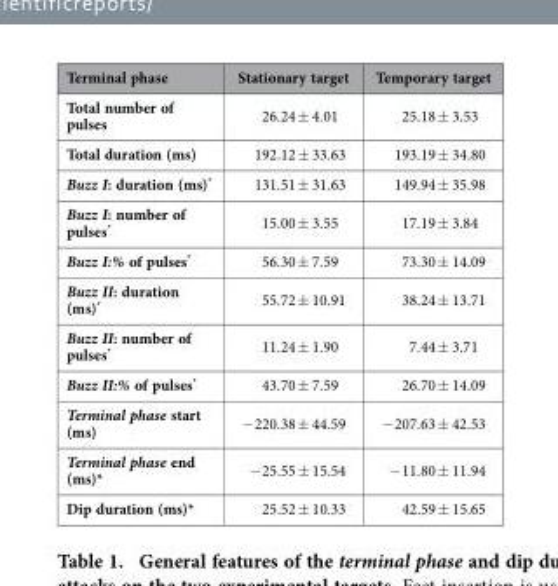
<table><thead><tr><td>Terminal phase</td><td>Stationary target</td><td>Temporary target</td></tr></thead><tbody><tr><td>Total number of pulses</td><td>26.24 ± 4.01</td><td>25.18 ± 3.53</td></tr><tr><td>Total duration (ms)</td><td>192.12 ± 33.63</td><td>193.19 ± 34.80</td></tr><tr><td>Buzz I: duration (ms)*</td><td>131.51 ± 31.63</td><td>149.94 ± 35.98</td></tr><tr><td>Buzz I: number of pulses*</td><td>15.00 ± 3.55</td><td>17.19 ± 3.84</td></tr><tr><td>Buzz I:% of pulses*</td><td>56.30 ± 7.59</td><td>73.30 ± 14.09</td></tr><tr><td>Buzz II: duration (ms)*</td><td>55.72 ± 10.91</td><td>38.24 ± 13.71</td></tr><tr><td>Buzz II: number of pulses*</td><td>11.24 ± 1.90</td><td>7.44 ± 3.71</td></tr><tr><td>Buzz II:% of pulses*</td><td>43.70 ± 7.59</td><td>26.70 ± 14.09</td></tr><tr><td>Terminal phase start (ms)</td><td>− 220.38 ± 44.59</td><td>− 207.63 ± 42.53</td></tr><tr><td>Terminal phase end (ms)*</td><td>− 25.55 ± 15.54</td><td>− 11.80 ± 11.94</td></tr><tr><td>Dip duration (ms)*</td><td>25.52 ± 10.33</td><td>42.59 ± 15.65</td></tr></tbody></table>